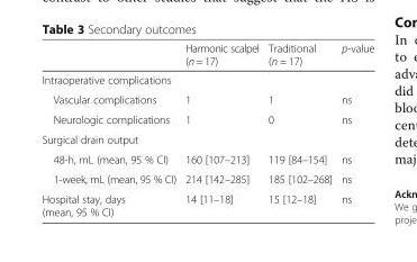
<table><thead><tr><td></td><td>Harmonic scalpel (n = 17)</td><td>Traditional (n = 17)</td><td>p-value</td></tr></thead><tbody><tr><td colspan="4">Intraoperative complications</td></tr><tr><td>Vascular complications</td><td>1</td><td>1</td><td>ns</td></tr><tr><td>Neurologic complications</td><td>1</td><td>0</td><td>ns</td></tr><tr><td colspan="4">Surgical drain output</td></tr><tr><td>48-h, mL (mean, 95 % CI)</td><td>160 [107–213]</td><td>119 [84–154]</td><td>ns</td></tr><tr><td>1-week, mL (mean, 95 % CI)</td><td>214 [142–285]</td><td>185 [102–268]</td><td>ns</td></tr><tr><td>Hospital stay, days (mean, 95 % CI)</td><td>14 [11–18]</td><td>15 [12–18]</td><td>ns</td></tr></tbody></table>